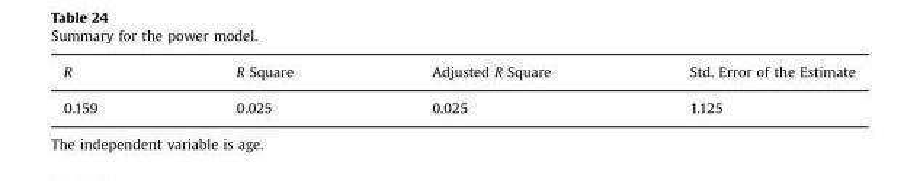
<table><thead><tr><td>R</td><td>R Square</td><td>Adjusted R Square</td><td>Std. Error of the Estimate</td></tr></thead><tbody><tr><td>0.159</td><td>0.025</td><td>0.025</td><td>1.125</td></tr></tbody></table>